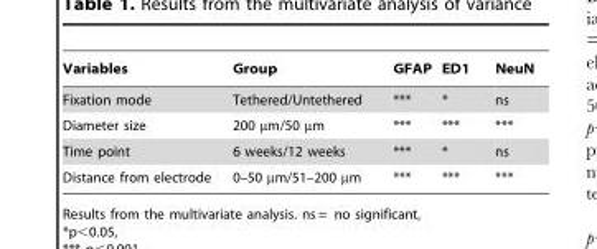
<table><thead><tr><td>Variables</td><td>Group</td><td>GFAP</td><td>ED1</td><td>NeuN</td></tr></thead><tbody><tr><td>Fixation mode</td><td>Tethered/Untethered</td><td>***</td><td>*</td><td>ns</td></tr><tr><td>Diameter size</td><td>200 µm/50 µm</td><td>***</td><td>***</td><td>***</td></tr><tr><td>Time point</td><td>6 weeks/12 weeks</td><td>***</td><td>*</td><td>ns</td></tr><tr><td>Distance from electrode</td><td>0–50 µm/51–200 µm</td><td>***</td><td>***</td><td>***</td></tr></tbody></table>